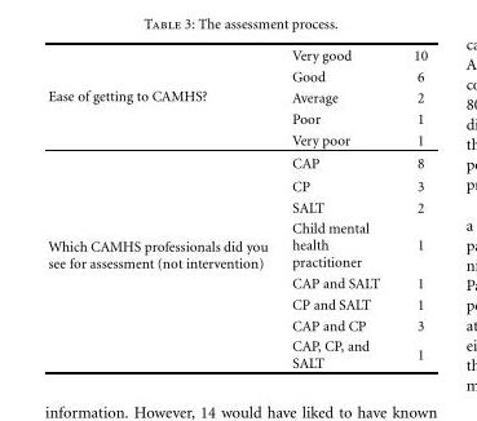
<table><tbody><tr><td rowspan="5">Ease of getting to CAMHS?</td><td>Very good</td><td>10</td></tr><tr><td>Good</td><td>6</td></tr><tr><td>Average</td><td>2</td></tr><tr><td>Poor</td><td>1</td></tr><tr><td>Very poor</td><td>1</td></tr><tr><td rowspan="8">Which CAMHS professionals did you see for assessment (not intervention)</td><td>CAP</td><td>8</td></tr><tr><td>CP</td><td>3</td></tr><tr><td>SALT</td><td>2</td></tr><tr><td>Child mental health practitioner</td><td>1</td></tr><tr><td>CAP and SALT</td><td>1</td></tr><tr><td>CP and SALT</td><td>1</td></tr><tr><td>CAP and CP</td><td>3</td></tr><tr><td>CAP, CP, and SALT</td><td>1</td></tr></tbody></table>